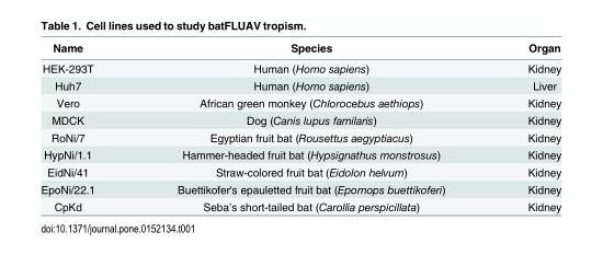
<table><thead><tr><td>Name</td><td>Species</td><td>Organ</td></tr></thead><tbody><tr><td>HEK-293T</td><td>Human (Homo sapiens)</td><td>Kidney</td></tr><tr><td>Huh7</td><td>Human (Homo sapiens)</td><td>Liver</td></tr><tr><td>Vero</td><td>African green monkey (Chlorocebus aethiops)</td><td>Kidney</td></tr><tr><td>MDCK</td><td>Dog (Canis lupus familaris)</td><td>Kidney</td></tr><tr><td>RoNi/7</td><td>Egyptian fruit bat (Rousettus aegyptiacus)</td><td>Kidney</td></tr><tr><td>HypNi/1.1</td><td>Hammer-headed fruit bat (Hypsignathus monstrosus)</td><td>Kidney</td></tr><tr><td>EidNi/41</td><td>Straw-colored fruit bat (Eidolon helvum)</td><td>Kidney</td></tr><tr><td>EpoNi/22.1</td><td>Buettikofer&#x27;s epauletted fruit bat (Epomops buettikoferi)</td><td>Kidney</td></tr><tr><td>CpKd</td><td>Seba’s short-tailed bat (Carollia perspicillata)</td><td>Kidney</td></tr></tbody></table>